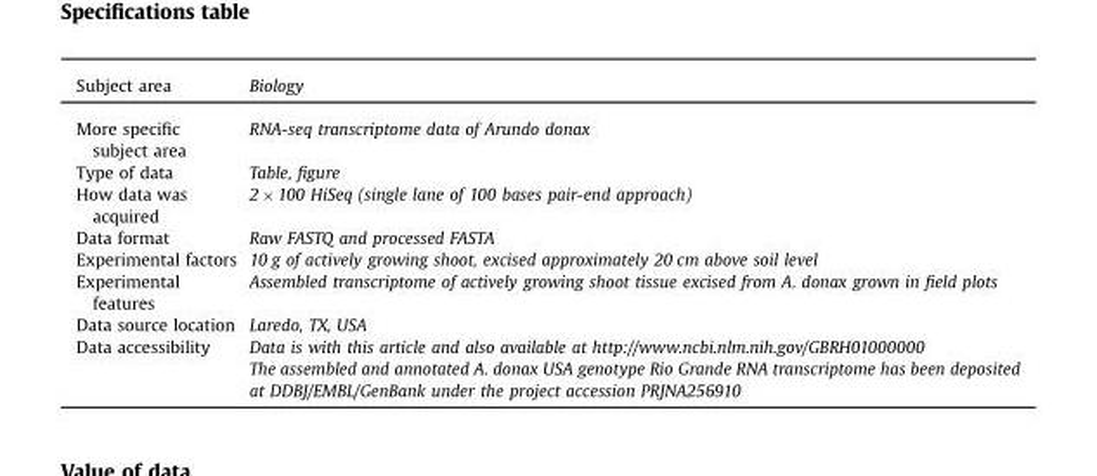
<table><thead><tr><td>Subject area</td><td>Biology</td></tr></thead><tbody><tr><td>More specific subject area</td><td>RNA-seq transcriptome data of Arundo donax</td></tr><tr><td>Type of data</td><td>Table, figure</td></tr><tr><td>How data was acquired</td><td>2 × 100 HiSeq (single lane of 100 bases pair-end approach)</td></tr><tr><td>Data format</td><td>Raw FASTQ and processed FASTA</td></tr><tr><td>Experimental factors</td><td>10 g of actively growing shoot, excised approximately 20 cm above soil level</td></tr><tr><td>Experimental features</td><td>Assembled transcriptome of actively growing shoot tissue excised from A. donax grown in field plots</td></tr><tr><td>Data source location</td><td>Laredo, TX, USA</td></tr><tr><td rowspan="2">Data accessibility</td><td>Data is with this article and also available at http://www.ncbi.nlm.nih.gov/GBRH01000000</td></tr><tr><td>The assembled and annotated A. donax USA genotype Rio Grande RNA transcriptome has been deposited at DDBJ/EMBL/GenBank under the project accession PRJNA256910</td></tr></tbody></table>